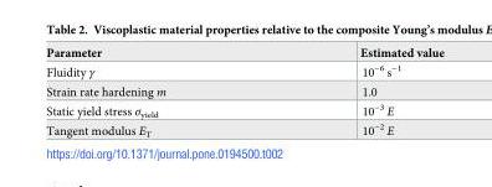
<table><thead><tr><td>Parameter</td><td>Estimated value</td></tr></thead><tbody><tr><td>Fluidity γ</td><td>10<sup>−6</sup> s<sup>−1</sup></td></tr><tr><td>Strain rate hardening m</td><td>1.0</td></tr><tr><td>Static yield stress σ<sub>yield</sub></td><td>10<sup>−3</sup> E</td></tr><tr><td>Tangent modulus E<sub>T</sub></td><td>10<sup>−2</sup> E</td></tr></tbody></table>